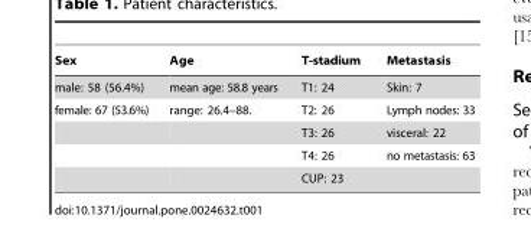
<table><thead><tr><td>Sex</td><td>Age</td><td>T-stadium</td><td>Metastasis</td></tr></thead><tbody><tr><td>male: 58 (56.4%)</td><td>mean age: 58.8 years</td><td>T1: 24</td><td>Skin: 7</td></tr><tr><td rowspan="4">female: 67 (53.6%)</td><td>range: 26.4–88.</td><td>T2: 26</td><td>Lymph nodes: 33</td></tr><tr><td></td><td>T3: 26</td><td>visceral: 22</td></tr><tr><td></td><td>T4: 26</td><td>no metastasis: 63</td></tr><tr><td></td><td>CUP: 23</td><td></td></tr></tbody></table>